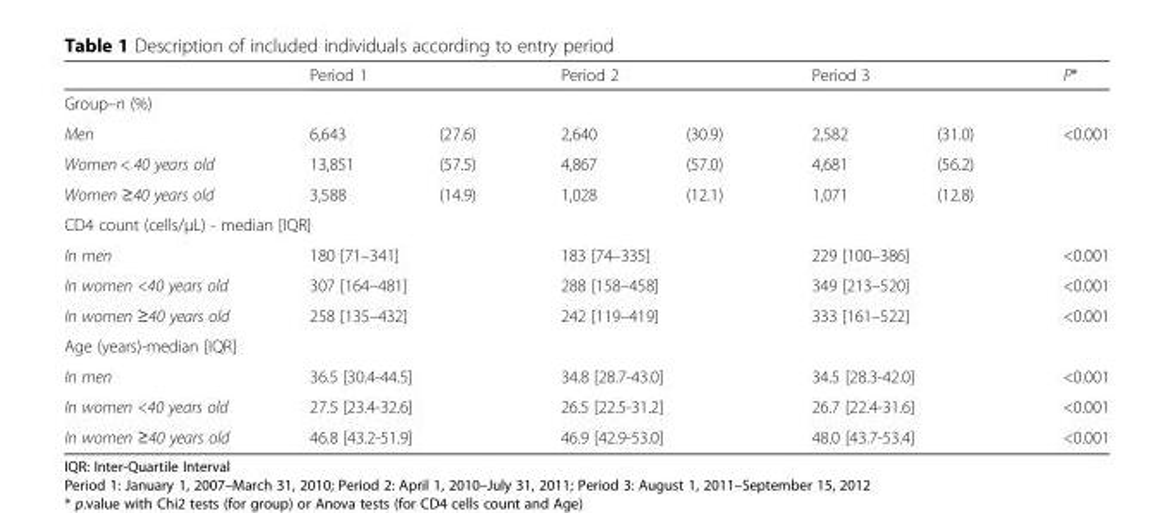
<table><thead><tr><td></td><td colspan="2">Period 1</td><td colspan="2">Period 2</td><td colspan="2">Period 3</td><td>P*</td></tr><tr><td colspan="8">Group–n (%)</td></tr><tr><td>Men</td><td>6,643</td><td>(27.6)</td><td>2,640</td><td>(30.9)</td><td>2,582</td><td>(31.0)</td><td>&lt;0.001</td></tr></thead><tbody><tr><td>Women &lt; 40 years old</td><td>13,851</td><td>(57.5)</td><td>4,867</td><td>(57.0)</td><td>4,681</td><td>(56.2)</td><td></td></tr><tr><td>Women ≥40 years old</td><td>3,588</td><td>(14.9)</td><td>1,028</td><td>(12.1)</td><td>1,071</td><td>(12.8)</td><td></td></tr><tr><td colspan="8">CD4 count (cells/μL) - median [IQR]</td></tr><tr><td>In men</td><td colspan="2">180 [71–341]</td><td colspan="2">183 [74–335]</td><td colspan="2">229 [100–386]</td><td>&lt;0.001</td></tr><tr><td>In women &lt;40 years old</td><td colspan="2">307 [164–481]</td><td colspan="2">288 [158–458]</td><td colspan="2">349 [213–520]</td><td>&lt;0.001</td></tr><tr><td>In women ≥40 years old</td><td colspan="2">258 [135–432]</td><td colspan="2">242 [119–419]</td><td colspan="2">333 [161–522]</td><td>&lt;0.001</td></tr><tr><td colspan="8">Age (years)-median [IQR]</td></tr><tr><td>In men</td><td colspan="2">36.5 [30.4-44.5]</td><td colspan="2">34.8 [28.7-43.0]</td><td colspan="2">34.5 [28.3-42.0]</td><td>&lt;0.001</td></tr><tr><td>In women &lt;40 years old</td><td colspan="2">27.5 [23.4-32.6]</td><td colspan="2">26.5 [22.5-31.2]</td><td colspan="2">26.7 [22.4-31.6]</td><td>&lt;0.001</td></tr><tr><td>In women ≥40 years old</td><td colspan="2">46.8 [43.2-51.9]</td><td colspan="2">46.9 [42.9-53.0]</td><td colspan="2">48.0 [43.7-53.4]</td><td>&lt;0.001</td></tr></tbody></table>